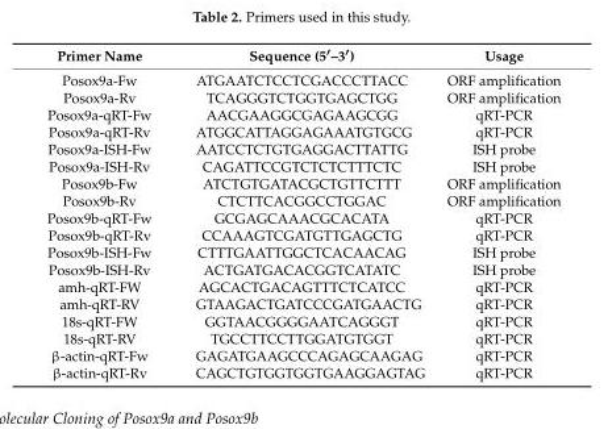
<table><thead><tr><td>Primer Name</td><td>Sequence (5′–3′)</td><td>Usage</td></tr></thead><tbody><tr><td>Posox9a-Fw</td><td>ATGAATCTCCTCGACCCTTACC</td><td>ORF amplification</td></tr><tr><td>Posox9a-Rv</td><td>TCAGGGTCTGGTGAGCTGG</td><td>ORF amplification</td></tr><tr><td>Posox9a-qRT-Fw</td><td>AACGAAGGCGAGAAGCGG</td><td>qRT-PCR</td></tr><tr><td>Posox9a-qRT-Rv</td><td>ATGGCATTAGGAGAAATGTGCG</td><td>qRT-PCR</td></tr><tr><td>Posox9a-ISH-Fw</td><td>AATCCTCTGTGAGGACTTATTG</td><td>ISH probe</td></tr><tr><td>Posox9a-ISH-Rv</td><td>CAGATTCCGTCTCTCTTTCTC</td><td>ISH probe</td></tr><tr><td>Posox9b-Fw</td><td>ATCTGTGATACGCTGTTCTTT</td><td>ORF amplification</td></tr><tr><td>Posox9b-Rv</td><td>CTCTTCACGGCCTGGAC</td><td>ORF amplification</td></tr><tr><td>Posox9b-qRT-Fw</td><td>GCGAGCAAACGCACATA</td><td>qRT-PCR</td></tr><tr><td>Posox9b-qRT-Rv</td><td>CCAAAGTCGATGTTGAGCTG</td><td>qRT-PCR</td></tr><tr><td>Posox9b-ISH-Fw</td><td>CTTTGAATTGGCTCACAACAG</td><td>ISH probe</td></tr><tr><td>Posox9b-ISH-Rv</td><td>ACTGATGACACGGTCATATC</td><td>ISH probe</td></tr><tr><td>amh-qRT-FW</td><td>AGCACTGACAGTTTCTCATCC</td><td>qRT-PCR</td></tr><tr><td>amh-qRT-RV</td><td>GTAAGACTGATCCCGATGAACTG</td><td>qRT-PCR</td></tr><tr><td>18s-qRT-FW</td><td>GGTAACGGGGAATCAGGGT</td><td>qRT-PCR</td></tr><tr><td>18s-qRT-RV</td><td>TGCCTTCCTTGGATGTGGT</td><td>qRT-PCR</td></tr><tr><td>β-actin-qRT-Fw</td><td>GAGATGAAGCCCAGAGCAAGAG</td><td>qRT-PCR</td></tr><tr><td>β-actin-qRT-Rv</td><td>CAGCTGTGGTGGTGAAGGAGTAG</td><td>qRT-PCR</td></tr></tbody></table>